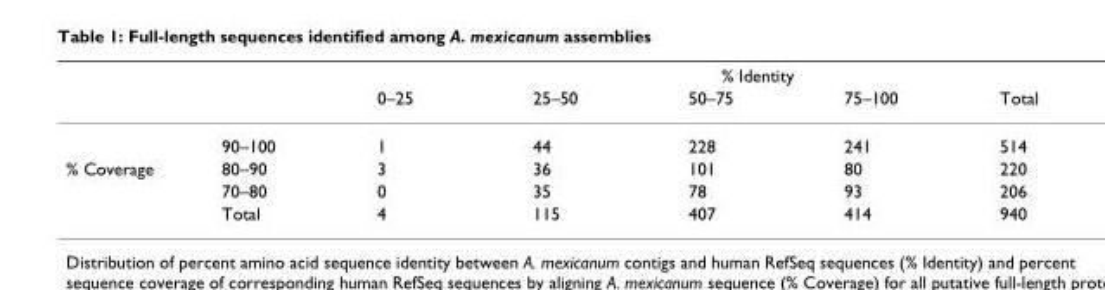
<table><thead><tr><td rowspan="2"></td><td rowspan="2"></td><td colspan="5">% Identity</td></tr><tr><td>0–25</td><td>25–50</td><td>50–75</td><td>75–100</td><td>Total</td></tr></thead><tbody><tr><td></td><td>90–100</td><td>1</td><td>44</td><td>228</td><td>241</td><td>514</td></tr><tr><td rowspan="3">% Coverage</td><td>80–90</td><td>3</td><td>36</td><td>101</td><td>80</td><td>220</td></tr><tr><td>70–80</td><td>0</td><td>35</td><td>78</td><td>93</td><td>206</td></tr><tr><td>Total</td><td>4</td><td>115</td><td>407</td><td>414</td><td>940</td></tr></tbody></table>